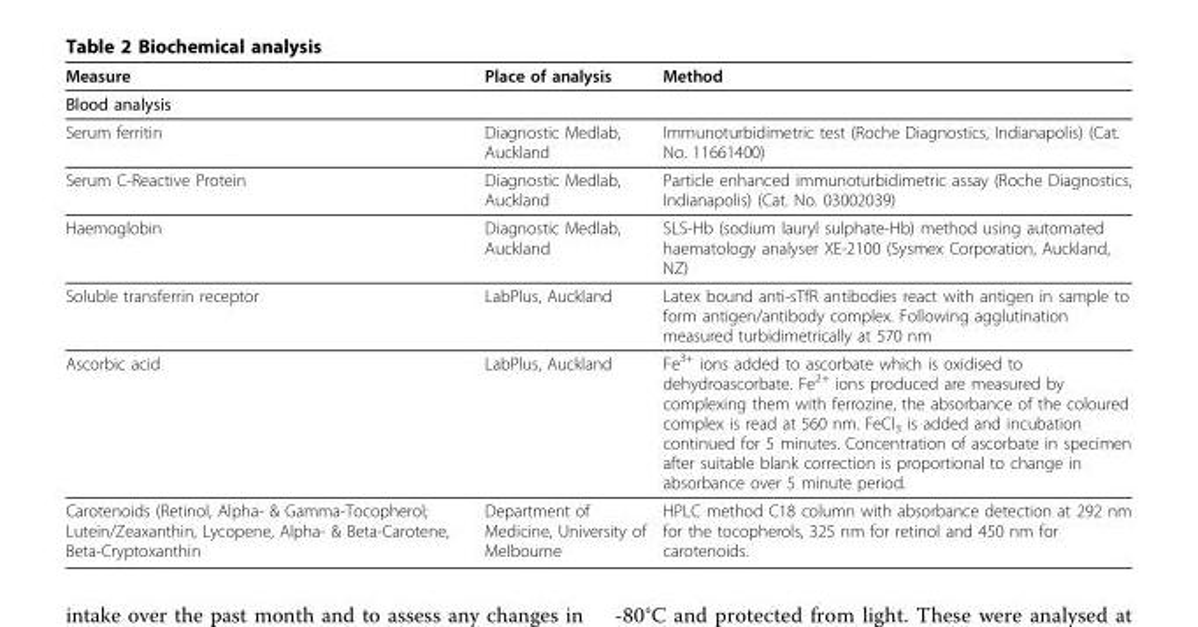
<table><thead><tr><td>Measure</td><td>Place of analysis</td><td>Method</td></tr></thead><tbody><tr><td colspan="3">Blood analysis</td></tr><tr><td>Serum ferritin</td><td>Diagnostic Medlab, Auckland</td><td>Immunoturbidimetric test (Roche Diagnostics, Indianapolis) (Cat. No. 11661400)</td></tr><tr><td>Serum C-Reactive Protein</td><td>Diagnostic Medlab, Auckland</td><td>Particle enhanced immunoturbidimetric assay (Roche Diagnostics, Indianapolis) (Cat. No. 03002039)</td></tr><tr><td>Haemoglobin</td><td>Diagnostic Medlab, Auckland</td><td>SLS-Hb (sodium lauryl sulphate-Hb) method using automated haematology analyser XE-2100 (Sysmex Corporation, Auckland, NZ)</td></tr><tr><td>Soluble transferrin receptor</td><td>LabPlus, Auckland</td><td>Latex bound anti-sTfR antibodies react with antigen in sample to form antigen/antibody complex. Following agglutination measured turbidimetrically at 570 nm</td></tr><tr><td>Ascorbic acid</td><td>LabPlus, Auckland</td><td>Fe<sup>3+</sup> ions added to ascorbate which is oxidised to dehydroascorbate. Fe<sup>2+</sup> ions produced are measured by complexing them with ferrozine, the absorbance of the coloured complex is read at 560 nm. FeCl<sub>3</sub> is added and incubation continued for 5 minutes. Concentration of ascorbate in specimen after suitable blank correction is proportional to change in absorbance over 5 minute period.</td></tr><tr><td>Carotenoids (Retinol, Alpha- &amp; Gamma-Tocopherol; Lutein/Zeaxanthin, Lycopene, Alpha- &amp; Beta-Carotene, Beta-Cryptoxanthin</td><td>Department of Medicine, University of Melbourne</td><td>HPLC method C18 column with absorbance detection at 292 nm for the tocopherols, 325 nm for retinol and 450 nm for carotenoids.</td></tr></tbody></table>